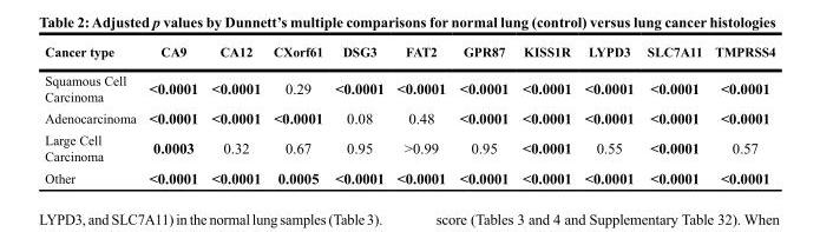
<table><thead><tr><td>Cancer type</td><td>CA9</td><td>CA12</td><td>CXorf61</td><td>DSG3</td><td>FAT2</td><td>GPR87</td><td>KISS1R</td><td>LYPD3</td><td>SLC7A11</td><td>TMPRSS4</td></tr></thead><tbody><tr><td>Squamous Cell Carcinoma</td><td>&lt;0.0001</td><td>&lt;0.0001</td><td>0.29</td><td>&lt;0.0001</td><td>&lt;0.0001</td><td>&lt;0.0001</td><td>&lt;0.0001</td><td>&lt;0.0001</td><td>&lt;0.0001</td><td>&lt;0.0001</td></tr><tr><td>Adenocarcinoma</td><td>&lt;0.0001</td><td>&lt;0.0001</td><td>&lt;0.0001</td><td>0.08</td><td>0.48</td><td>&lt;0.0001</td><td>&lt;0.0001</td><td>&lt;0.0001</td><td>&lt;0.0001</td><td>&lt;0.0001</td></tr><tr><td>Large Cell Carcinoma</td><td>0.0003</td><td>0.32</td><td>0.67</td><td>0.95</td><td>&gt;0.99</td><td>0.95</td><td>&lt;0.0001</td><td>0.55</td><td>&lt;0.0001</td><td>0.57</td></tr><tr><td>Other</td><td>&lt;0.0001</td><td>&lt;0.0001</td><td>0.0005</td><td>&lt;0.0001</td><td>&lt;0.0001</td><td>&lt;0.0001</td><td>&lt;0.0001</td><td>&lt;0.0001</td><td>&lt;0.0001</td><td>&lt;0.0001</td></tr></tbody></table>